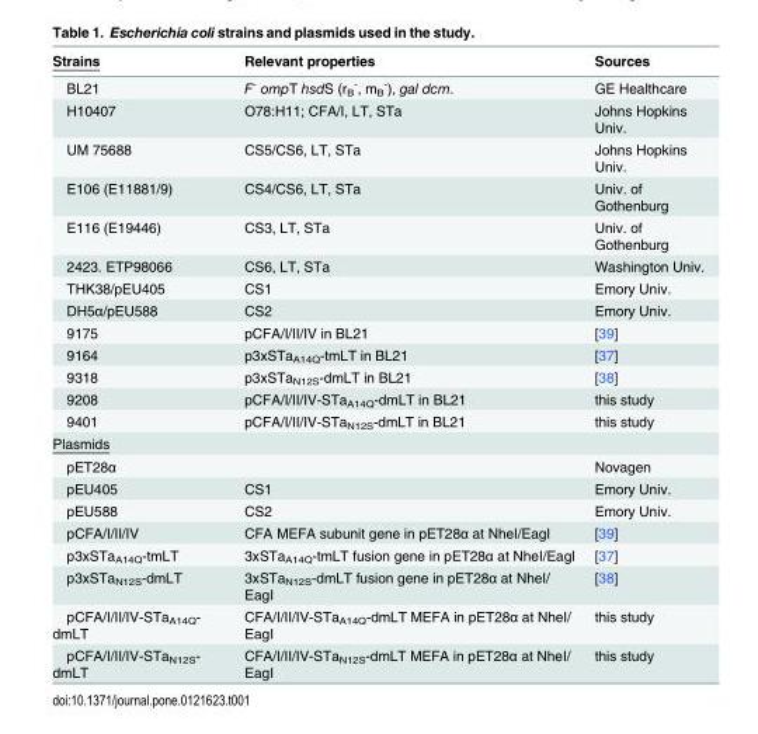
<table><thead><tr><td>Strains</td><td>Relevant properties</td><td>Sources</td></tr></thead><tbody><tr><td>BL21</td><td>F<sup>-</sup> ompT hsdS (r<sub>B</sub> <sup>-</sup>, m<sub>B</sub> <sup>-</sup>), gal dcm.</td><td>GE Healthcare</td></tr><tr><td>H10407</td><td>O78:H11; CFA/I, LT, STa</td><td>Johns Hopkins Univ.</td></tr><tr><td>UM 75688</td><td>CS5/CS6, LT, STa</td><td>Johns Hopkins Univ.</td></tr><tr><td>E106 (E11881/9)</td><td>CS4/CS6, LT, STa</td><td>Univ. of Gothenburg</td></tr><tr><td>E116 (E19446)</td><td>CS3, LT, STa</td><td>Univ. of Gothenburg</td></tr><tr><td>2423. ETP98066</td><td>CS6, LT, STa</td><td>Washington Univ.</td></tr><tr><td>THK38/pEU405</td><td>CS1</td><td>Emory Univ.</td></tr><tr><td>DH5α/pEU588</td><td>CS2</td><td>Emory Univ.</td></tr><tr><td>9175</td><td>pCFA/I/II/IV in BL21</td><td>[39]</td></tr><tr><td>9164</td><td>p3xSTa<sub>A14Q</sub>-tmLT in BL21</td><td>[37]</td></tr><tr><td>9318</td><td>p3xSTa<sub>N12S</sub>-dmLT in BL21</td><td>[38]</td></tr><tr><td>9208</td><td>pCFA/I/II/IV-STa<sub>A14Q</sub>-dmLT in BL21</td><td>this study</td></tr><tr><td>9401</td><td>pCFA/I/II/IV-STa<sub>N12S</sub>-dmLT in BL21</td><td>this study</td></tr><tr><td colspan="3">Plasmids</td></tr><tr><td>pET28α</td><td></td><td>Novagen</td></tr><tr><td>pEU405</td><td>CS1</td><td>Emory Univ.</td></tr><tr><td>pEU588</td><td>CS2</td><td>Emory Univ.</td></tr><tr><td>pCFA/I/II/IV</td><td>CFA MEFA subunit gene in pET28α at NheI/EagI</td><td>[39]</td></tr><tr><td>p3xSTa<sub>A14Q</sub>-tmLT</td><td>3xSTa<sub>A14Q</sub>-tmLT fusion gene in pET28α at NheI/EagI</td><td>[37]</td></tr><tr><td>p3xSTa<sub>N12S</sub>-dmLT</td><td>3xSTa<sub>N12S</sub>-dmLT fusion gene in pET28α at NheI/ EagI</td><td>[38]</td></tr><tr><td>pCFA/I/II/IV-STa<sub>A14Q</sub>- dmLT</td><td>CFA/I/II/IV-STa<sub>A14Q</sub>-dmLT MEFA in pET28α at NheI/ EagI</td><td>this study</td></tr><tr><td>pCFA/I/II/IV-STa<sub>N12S</sub>- dmLT</td><td>CFA/I/II/IV-STa<sub>N12S</sub>-dmLT MEFA in pET28α at NheI/ EagI</td><td>this study</td></tr></tbody></table>